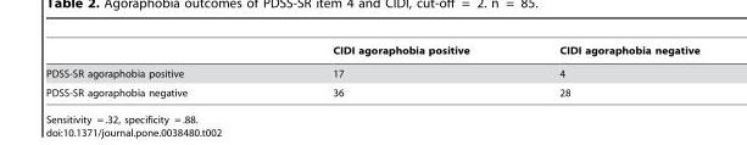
<table><thead><tr><td></td><td>CIDI agoraphobia positive</td><td>CIDI agoraphobia negative</td></tr></thead><tbody><tr><td>PDSS-SR agoraphobia positive</td><td>17</td><td>4</td></tr><tr><td>PDSS-SR agoraphobia negative</td><td>36</td><td>28</td></tr></tbody></table>